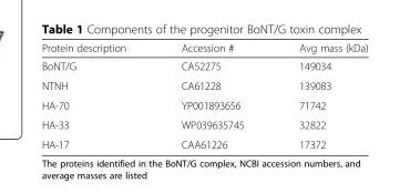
<table><thead><tr><td>Protein description</td><td>Accession #</td><td>Avg mass (kDa)</td></tr></thead><tbody><tr><td>BoNT/G</td><td>CA52275</td><td>149034</td></tr><tr><td>NTNH</td><td>CA61228</td><td>139083</td></tr><tr><td>HA-70</td><td>YP001893656</td><td>71742</td></tr><tr><td>HA-33</td><td>WP039635745</td><td>32822</td></tr><tr><td>HA-17</td><td>CAA61226</td><td>17372</td></tr></tbody></table>